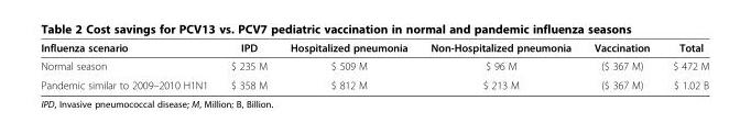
<table><thead><tr><td>Influenza scenario</td><td>IPD</td><td>Hospitalized pneumonia</td><td>Non-Hospitalized pneumonia</td><td>Vaccination</td><td>Total</td></tr></thead><tbody><tr><td>Normal season</td><td>$ 235 M</td><td>$ 509 M</td><td>$ 96 M</td><td>($ 367 M)</td><td>$ 472 M</td></tr><tr><td>Pandemic similar to 2009–2010 H1N1</td><td>$ 358 M</td><td>$ 812 M</td><td>$ 213 M</td><td>($ 367 M)</td><td>$ 1.02 B</td></tr></tbody></table>